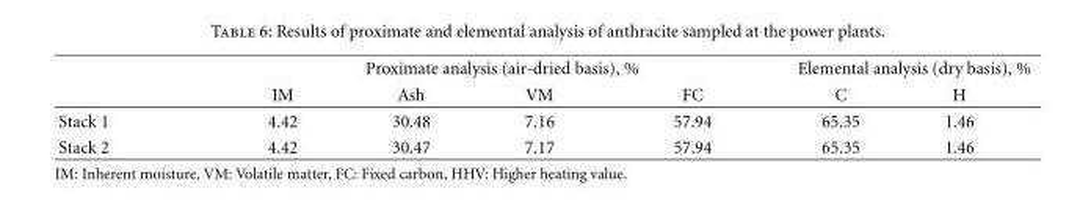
<table><thead><tr><td rowspan="2"></td><td colspan="4">Proximate analysis (air-dried basis), %</td><td colspan="2">Elemental analysis (dry basis), %</td></tr><tr><td>IM</td><td>Ash</td><td>VM</td><td>FC</td><td>C</td><td>H</td></tr></thead><tbody><tr><td>Stack 1</td><td>4.42</td><td>30.48</td><td>7.16</td><td>57.94</td><td>65.35</td><td>1.46</td></tr><tr><td>Stack 2</td><td>4.42</td><td>30.47</td><td>7.17</td><td>57.94</td><td>65.35</td><td>1.46</td></tr></tbody></table>